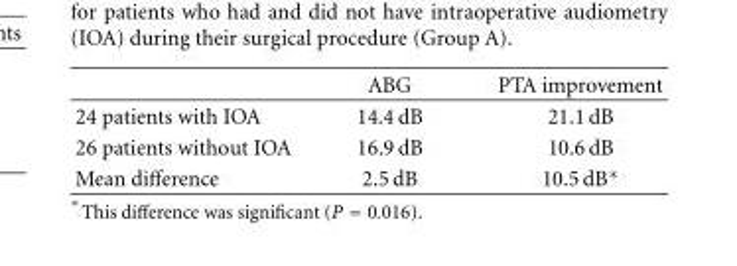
<table><thead><tr><td></td><td>ABG</td><td>PTA improvement</td></tr></thead><tbody><tr><td>24 patients with IOA</td><td>14.4 dB</td><td>21.1 dB</td></tr><tr><td>26 patients without IOA</td><td>16.9 dB</td><td>10.6 dB</td></tr><tr><td>Mean difference</td><td>2.5 dB</td><td>10.5 dB∗</td></tr></tbody></table>